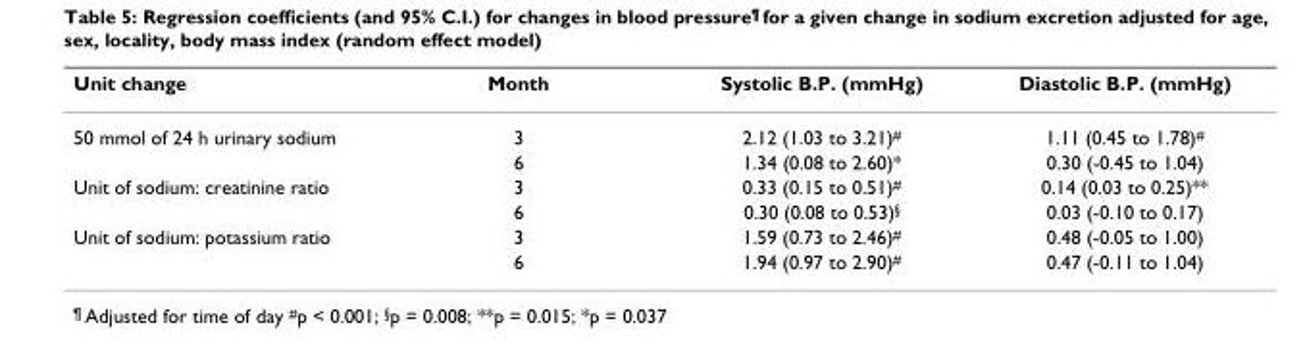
<table><thead><tr><td>Unit change</td><td>Month</td><td>Systolic B.P. (mmHg)</td><td>Diastolic B.P. (mmHg)</td></tr></thead><tbody><tr><td rowspan="2">50 mmol of 24 h urinary sodium</td><td>3</td><td>2.12 (1.03 to 3.21)#</td><td>1.11 (0.45 to 1.78)#</td></tr><tr><td>6</td><td>1.34 (0.08 to 2.60)*</td><td>0.30 (-0.45 to 1.04)</td></tr><tr><td rowspan="2">Unit of sodium: creatinine ratio</td><td>3</td><td>0.33 (0.15 to 0.51)#</td><td>0.14 (0.03 to 0.25)**</td></tr><tr><td>6</td><td>0.30 (0.08 to 0.53)§</td><td>0.03 (-0.10 to 0.17)</td></tr><tr><td rowspan="2">Unit of sodium: potassium ratio</td><td>3</td><td>1.59 (0.73 to 2.46)#</td><td>0.48 (-0.05 to 1.00)</td></tr><tr><td>6</td><td>1.94 (0.97 to 2.90)#</td><td>0.47 (-0.11 to 1.04)</td></tr></tbody></table>